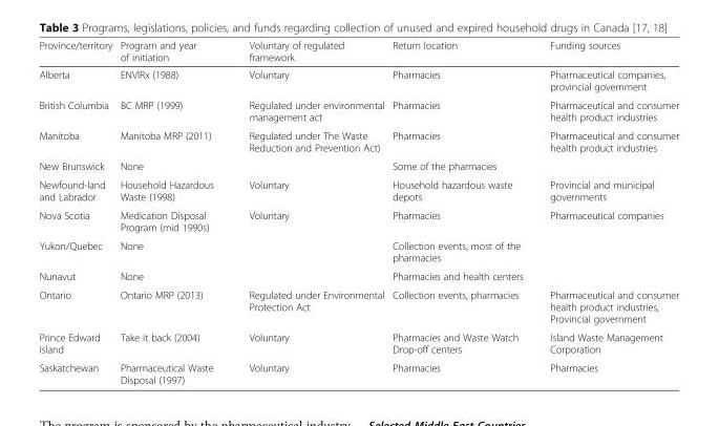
<table><thead><tr><td>Province/territory</td><td>Program and year of initiation</td><td>Voluntary of regulated framework</td><td>Return location</td><td>Funding sources</td></tr></thead><tbody><tr><td>Alberta</td><td>ENVIRx (1988)</td><td>Voluntary</td><td>Pharmacies</td><td>Pharmaceutical companies, provincial government</td></tr><tr><td>British Columbia</td><td>BC MRP (1999)</td><td>Regulated under environmental management act</td><td>Pharmacies</td><td>Pharmaceutical and consumer health product industries</td></tr><tr><td>Manitoba</td><td>Manitoba MRP (2011)</td><td>Regulated under The Waste Reduction and Prevention Act)</td><td>Pharmacies</td><td>Pharmaceutical and consumer health product industries</td></tr><tr><td>New Brunswick</td><td>None</td><td></td><td>Some of the pharmacies</td><td></td></tr><tr><td>Newfound-land and Labrador</td><td>Household Hazardous Waste (1998)</td><td>Voluntary</td><td>Household hazardous waste depots</td><td>Provincial and municipal governments</td></tr><tr><td>Nova Scotia</td><td>Medication Disposal Program (mid 1990s)</td><td>Voluntary</td><td>Pharmacies</td><td>Pharmaceutical companies</td></tr><tr><td>Yukon/Quebec</td><td>None</td><td></td><td>Collection events, most of the pharmacies</td><td></td></tr><tr><td>Nunavut</td><td>None</td><td></td><td>Pharmacies and health centers</td><td></td></tr><tr><td>Ontario</td><td>Ontario MRP (2013)</td><td>Regulated under Environmental Protection Act</td><td>Collection events, pharmacies</td><td>Pharmaceutical and consumer health product industries, Provincial government</td></tr><tr><td>Prince Edward Island</td><td>Take it back (2004)</td><td>Voluntary</td><td>Pharmacies and Waste Watch Drop-off centers</td><td>Island Waste Management Corporation</td></tr><tr><td>Saskatchewan</td><td>Pharmaceutical Waste Disposal (1997)</td><td>Voluntary</td><td>Pharmacies</td><td>Pharmacies</td></tr></tbody></table>